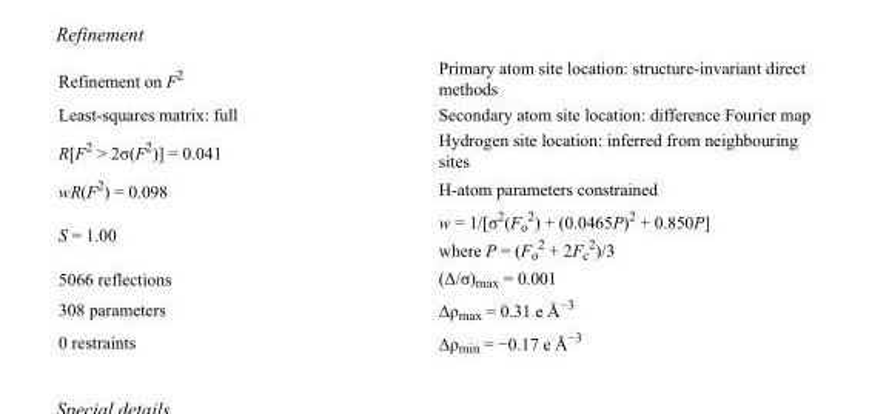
<table><tbody><tr><td>Refinement on F<sup>2</sup></td><td>Primary atom site location: structure-invariant direct methods</td></tr><tr><td>Least-squares matrix: full</td><td>Secondary atom site location: difference Fourier map</td></tr><tr><td>R[F<sup>2</sup> &gt; 2σ(F<sup>2</sup>)] = 0.041</td><td>Hydrogen site location: inferred from neighbouring sites</td></tr><tr><td>wR(F<sup>2</sup>) = 0.098</td><td>H-atom parameters constrained</td></tr><tr><td>S = 1.00</td><td>w = 1/[σ<sup>2</sup>(F<sub>o</sub> <sup>2</sup>) + (0.0465P)<sup>2</sup> + 0.850P] where P = (F<sub>o</sub> <sup>2</sup> + 2F<sub>c</sub> <sup>2</sup>)/3</td></tr><tr><td>5066 reflections</td><td>(Δ/σ)<sub>max</sub> = 0.001</td></tr><tr><td>308 parameters</td><td>Δρ<sub>max</sub> = 0.31 e Å<sup>−3</sup></td></tr><tr><td>0 restraints</td><td>Δρ<sub>min</sub> = −0.17 e Å<sup>−3</sup></td></tr></tbody></table>